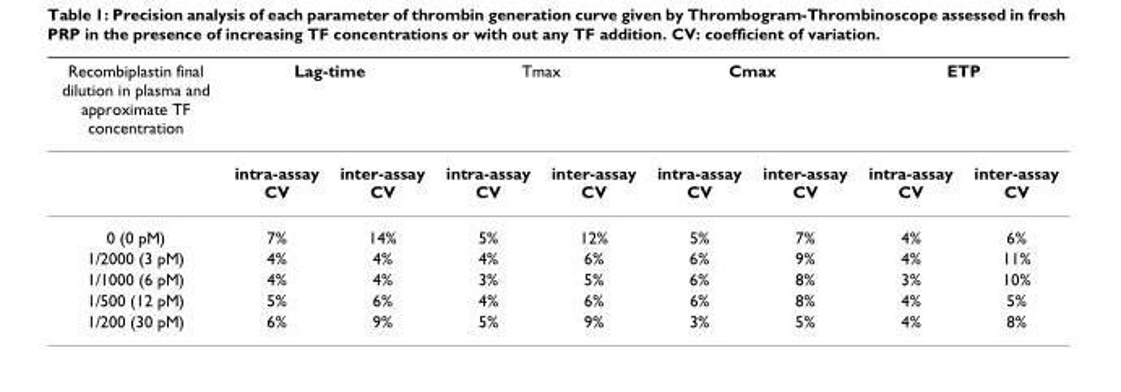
<table><thead><tr><td rowspan="2">Recombiplastin final dilution in plasma and approximate TF concentration</td><td colspan="2">Lag-time</td><td colspan="2">Tmax</td><td colspan="2">Cmax</td><td colspan="2">ETP</td></tr><tr><td>intra-assay CV</td><td>inter-assay CV</td><td>intra-assay CV</td><td>inter-assay CV</td><td>intra-assay CV</td><td>inter-assay CV</td><td>intra-assay CV</td><td>inter-assay CV</td></tr></thead><tbody><tr><td>0 (0 pM)</td><td>7%</td><td>14%</td><td>5%</td><td>12%</td><td>5%</td><td>7%</td><td>4%</td><td>6%</td></tr><tr><td>1/2000 (3 pM)</td><td>4%</td><td>4%</td><td>4%</td><td>6%</td><td>6%</td><td>9%</td><td>4%</td><td>11%</td></tr><tr><td>1/1000 (6 pM)</td><td>4%</td><td>4%</td><td>3%</td><td>5%</td><td>6%</td><td>8%</td><td>3%</td><td>10%</td></tr><tr><td>1/500 (12 pM)</td><td>5%</td><td>6%</td><td>4%</td><td>6%</td><td>6%</td><td>8%</td><td>4%</td><td>5%</td></tr><tr><td>1/200 (30 pM)</td><td>6%</td><td>9%</td><td>5%</td><td>9%</td><td>3%</td><td>5%</td><td>4%</td><td>8%</td></tr></tbody></table>